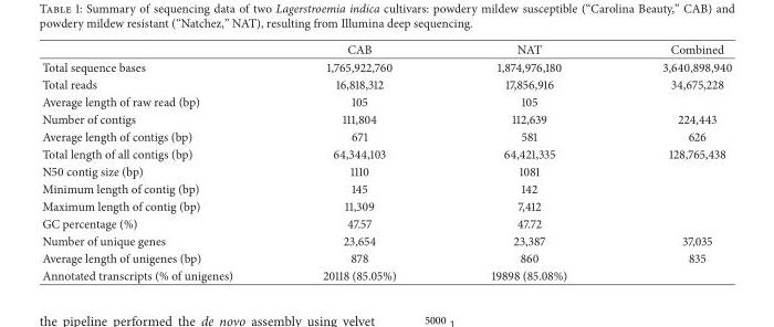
<table><thead><tr><td></td><td>CAB</td><td>NAT</td><td>Combined</td></tr></thead><tbody><tr><td>Total sequence bases</td><td>1,765,922,760</td><td>1,874,976,180</td><td>3,640,898,940</td></tr><tr><td>Total reads</td><td>16,818,312</td><td>17,856,916</td><td>34,675,228</td></tr><tr><td>Average length of raw read (bp)</td><td>105</td><td>105</td><td></td></tr><tr><td>Number of contigs</td><td>111,804</td><td>112,639</td><td>224,443</td></tr><tr><td>Average length of contigs (bp)</td><td>671</td><td>581</td><td>626</td></tr><tr><td>Total length of all contigs (bp)</td><td>64,344,103</td><td>64,421,335</td><td>128,765,438</td></tr><tr><td>N50 contig size (bp)</td><td>1110</td><td>1081</td><td></td></tr><tr><td>Minimum length of contig (bp)</td><td>145</td><td>142</td><td></td></tr><tr><td>Maximum length of contig (bp)</td><td>11,309</td><td>7,412</td><td></td></tr><tr><td>GC percentage (%)</td><td>47.57</td><td>47.72</td><td></td></tr><tr><td>Number of unique genes</td><td>23,654</td><td>23,387</td><td>37,035</td></tr><tr><td>Average length of unigenes (bp)</td><td>878</td><td>860</td><td>835</td></tr><tr><td>Annotated transcripts (% of unigenes)</td><td>20118 (85.05%)</td><td>19898 (85.08%)</td><td></td></tr></tbody></table>